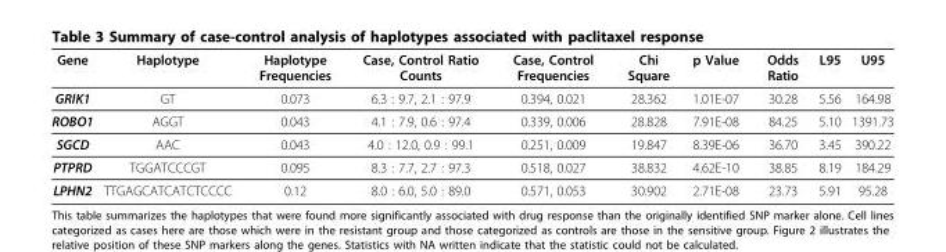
<table><thead><tr><td>Gene</td><td>Haplotype</td><td>Haplotype Frequencies</td><td>Case, Control Ratio Counts</td><td>Case, Control Frequencies</td><td>Chi Square</td><td>p Value</td><td>Odds Ratio</td><td>L95</td><td>U95</td></tr></thead><tbody><tr><td>GRIK1</td><td>GT</td><td>0.073</td><td>6.3 : 9.7, 2.1 : 97.9</td><td>0.394, 0.021</td><td>28.362</td><td>1.01E-07</td><td>30.28</td><td>5.56</td><td>164.98</td></tr><tr><td>ROBO1</td><td>AGGT</td><td>0.043</td><td>4.1 : 7.9, 0.6 : 97.4</td><td>0.339, 0.006</td><td>28.828</td><td>7.91E-08</td><td>84.25</td><td>5.10</td><td>1391.73</td></tr><tr><td>SGCD</td><td>AAC</td><td>0.043</td><td>4.0 : 12.0, 0.9 : 99.1</td><td>0.251, 0.009</td><td>19.847</td><td>8.39E-06</td><td>36.70</td><td>3.45</td><td>390.22</td></tr><tr><td>PTPRD</td><td>TGGATCCCGT</td><td>0.095</td><td>8.3 : 7.7, 2.7 : 97.3</td><td>0.518, 0.027</td><td>38.832</td><td>4.62E-10</td><td>38.85</td><td>8.19</td><td>184.29</td></tr><tr><td>LPHN2</td><td>TTGAGCATCATCTCCCC</td><td>0.12</td><td>8.0 : 6.0, 5.0 : 89.0</td><td>0.571, 0.053</td><td>30.902</td><td>2.71E-08</td><td>23.73</td><td>5.91</td><td>95.28</td></tr></tbody></table>